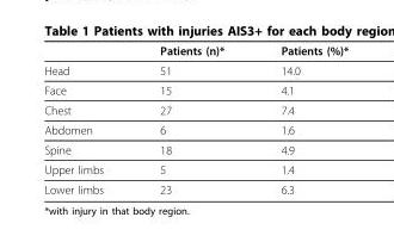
<table><thead><tr><td></td><td>Patients (n)*</td><td>Patients (%)*</td></tr></thead><tbody><tr><td>Head</td><td>51</td><td>14.0</td></tr><tr><td>Face</td><td>15</td><td>4.1</td></tr><tr><td>Chest</td><td>27</td><td>7.4</td></tr><tr><td>Abdomen</td><td>6</td><td>1.6</td></tr><tr><td>Spine</td><td>18</td><td>4.9</td></tr><tr><td>Upper limbs</td><td>5</td><td>1.4</td></tr><tr><td>Lower limbs</td><td>23</td><td>6.3</td></tr></tbody></table>